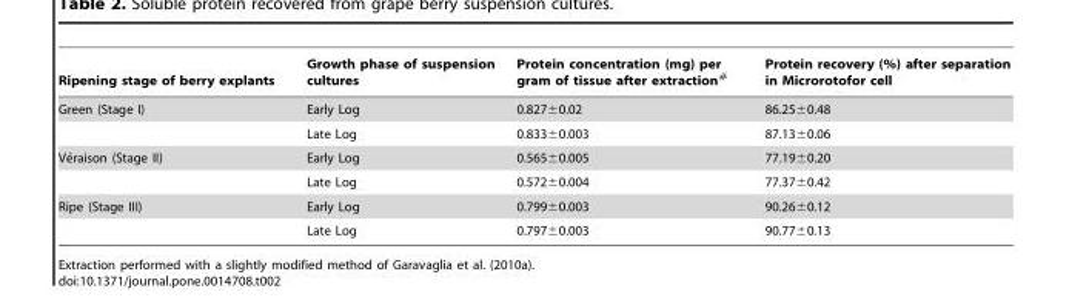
<table><thead><tr><td>Ripening stage of berry explants</td><td>Growth phase of suspension cultures</td><td>Protein concentration (mg) per gram of tissue after extraction<sup>#</sup></td><td>Protein recovery (%) after separation in Microrotofor cell</td></tr></thead><tbody><tr><td rowspan="2">Green (Stage I)</td><td>Early Log</td><td>0.827±0.02</td><td>86.25±0.48</td></tr><tr><td>Late Log</td><td>0.833±0.003</td><td>87.13±0.06</td></tr><tr><td rowspan="2">Ve´raison (Stage II)</td><td>Early Log</td><td>0.565±0.005</td><td>77.19±0.20</td></tr><tr><td>Late Log</td><td>0.572±0.004</td><td>77.37±0.42</td></tr><tr><td rowspan="2">Ripe (Stage III)</td><td>Early Log</td><td>0.799±0.003</td><td>90.26±0.12</td></tr><tr><td>Late Log</td><td>0.797±0.003</td><td>90.77±0.13</td></tr></tbody></table>